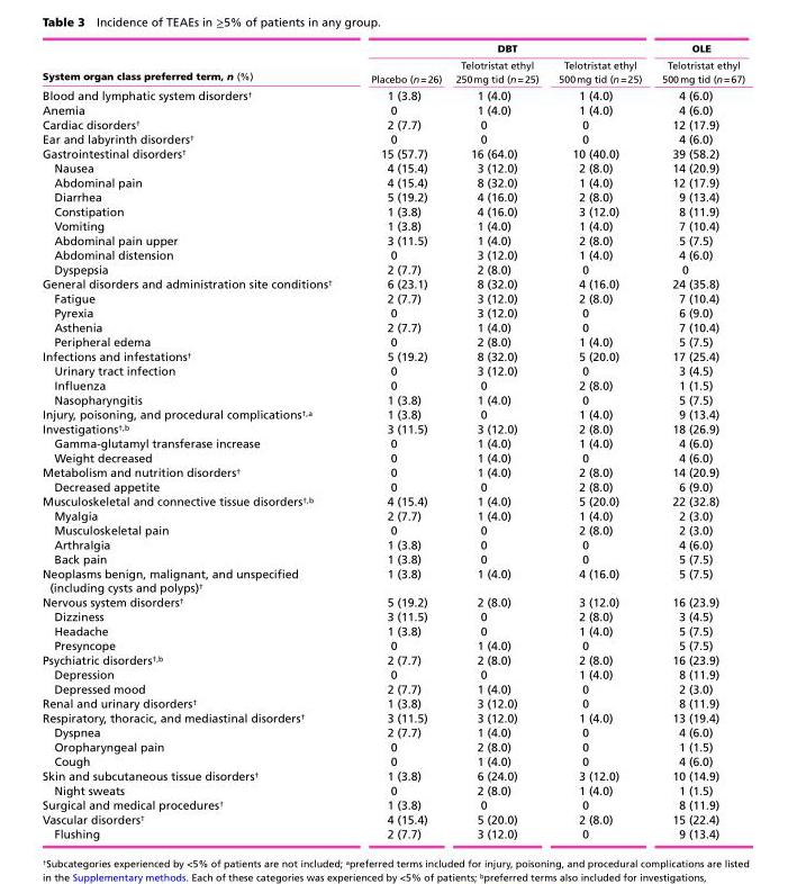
<table><thead><tr><td rowspan="2">System organ class preferred term, n (%)</td><td colspan="3">DBT</td><td rowspan="2">OLE Telotristat ethyl 500 mg tid (n = 67)</td></tr><tr><td>Placebo (n = 26)</td><td>Telotristat ethyl 250 mg tid (n = 25)</td><td>Telotristat ethyl 500 mg tid (n = 25)</td></tr></thead><tbody><tr><td>Blood and lymphatic system disorders<sup>†</sup></td><td>1 (3.8)</td><td>1 (4.0)</td><td>1 (4.0)</td><td>4 (6.0)</td></tr><tr><td>Anemia</td><td>0</td><td>1 (4.0)</td><td>1 (4.0)</td><td>4 (6.0)</td></tr><tr><td>Cardiac disorders<sup>†</sup></td><td>2 (7.7)</td><td>0</td><td>0</td><td>12 (17.9)</td></tr><tr><td>Ear and labyrinth disorders<sup>†</sup></td><td>0</td><td>0</td><td>0</td><td>4 (6.0)</td></tr><tr><td>Gastrointestinal disorders<sup>†</sup></td><td>15 (57.7)</td><td>16 (64.0)</td><td>10 (40.0)</td><td>39 (58.2)</td></tr><tr><td>Nausea</td><td>4 (15.4)</td><td>3 (12.0)</td><td>2 (8.0)</td><td>14 (20.9)</td></tr><tr><td>Abdominal pain</td><td>4 (15.4)</td><td>8 (32.0)</td><td>1 (4.0)</td><td>12 (17.9)</td></tr><tr><td>Diarrhea</td><td>5 (19.2)</td><td>4 (16.0)</td><td>2 (8.0)</td><td>9 (13.4)</td></tr><tr><td>Constipation</td><td>1 (3.8)</td><td>4 (16.0)</td><td>3 (12.0)</td><td>8 (11.9)</td></tr><tr><td>Vomiting</td><td>1 (3.8)</td><td>1 (4.0)</td><td>1 (4.0)</td><td>7 (10.4)</td></tr><tr><td>Abdominal pain upper</td><td>3 (11.5)</td><td>1 (4.0)</td><td>2 (8.0)</td><td>5 (7.5)</td></tr><tr><td>Abdominal distension</td><td>0</td><td>3 (12.0)</td><td>1 (4.0)</td><td>4 (6.0)</td></tr><tr><td>Dyspepsia</td><td>2 (7.7)</td><td>2 (8.0)</td><td>0</td><td>0</td></tr><tr><td>General disorders and administration site conditions<sup>†</sup></td><td>6 (23.1)</td><td>8 (32.0)</td><td>4 (16.0)</td><td>24 (35.8)</td></tr><tr><td>Fatigue</td><td>2 (7.7)</td><td>3 (12.0)</td><td>2 (8.0)</td><td>7 (10.4)</td></tr><tr><td>Pyrexia</td><td>0</td><td>3 (12.0)</td><td>0</td><td>6 (9.0)</td></tr><tr><td>Asthenia</td><td>2 (7.7)</td><td>1 (4.0)</td><td>0</td><td>7 (10.4)</td></tr><tr><td>Peripheral edema</td><td>0</td><td>2 (8.0)</td><td>1 (4.0)</td><td>5 (7.5)</td></tr><tr><td>Infections and infestations<sup>†</sup></td><td>5 (19.2)</td><td>8 (32.0)</td><td>5 (20.0)</td><td>17 (25.4)</td></tr><tr><td>Urinary tract infection</td><td>0</td><td>3 (12.0)</td><td>0</td><td>3 (4.5)</td></tr><tr><td>Influenza</td><td>0</td><td>0</td><td>2 (8.0)</td><td>1 (1.5)</td></tr><tr><td>Nasopharyngitis</td><td>1 (3.8)</td><td>1 (4.0)</td><td>0</td><td>5 (7.5)</td></tr><tr><td>Injury, poisoning, and procedural complications<sup>†,a</sup></td><td>1 (3.8)</td><td>0</td><td>1 (4.0)</td><td>9 (13.4)</td></tr><tr><td>Investigations<sup>†,b</sup></td><td>3 (11.5)</td><td>3 (12.0)</td><td>2 (8.0)</td><td>18 (26.9)</td></tr><tr><td>Gamma-glutamyl transferase increase</td><td>0</td><td>1 (4.0)</td><td>1 (4.0)</td><td>4 (6.0)</td></tr><tr><td>Weight decreased</td><td>0</td><td>1 (4.0)</td><td>0</td><td>4 (6.0)</td></tr><tr><td>Metabolism and nutrition disorders<sup>†</sup></td><td>0</td><td>1 (4.0)</td><td>2 (8.0)</td><td>14 (20.9)</td></tr><tr><td>Decreased appetite</td><td>0</td><td>0</td><td>2 (8.0)</td><td>6 (9.0)</td></tr><tr><td>Musculoskeletal and connective tissue disorders<sup>†,b</sup></td><td>4 (15.4)</td><td>1 (4.0)</td><td>5 (20.0)</td><td>22 (32.8)</td></tr><tr><td>Myalgia</td><td>2 (7.7)</td><td>1 (4.0)</td><td>1 (4.0)</td><td>2 (3.0)</td></tr><tr><td>Musculoskeletal pain</td><td>0</td><td>0</td><td>2 (8.0)</td><td>2 (3.0)</td></tr><tr><td>Arthralgia</td><td>1 (3.8)</td><td>0</td><td>0</td><td>4 (6.0)</td></tr><tr><td>Back pain</td><td>1 (3.8)</td><td>0</td><td>0</td><td>5 (7.5)</td></tr><tr><td>Neoplasms benign, malignant, and unspecified (including cysts and polyps)<sup>†</sup></td><td>1 (3.8)</td><td>1 (4.0)</td><td>4 (16.0)</td><td>5 (7.5)</td></tr><tr><td>Nervous system disorders<sup>†</sup></td><td>5 (19.2)</td><td>2 (8.0)</td><td>3 (12.0)</td><td>16 (23.9)</td></tr><tr><td>Dizziness</td><td>3 (11.5)</td><td>0</td><td>2 (8.0)</td><td>3 (4.5)</td></tr><tr><td>Headache</td><td>1 (3.8)</td><td>0</td><td>1 (4.0)</td><td>5 (7.5)</td></tr><tr><td>Presyncope</td><td>0</td><td>1 (4.0)</td><td>0</td><td>5 (7.5)</td></tr><tr><td>Psychiatric disorders<sup>†,b</sup></td><td>2 (7.7)</td><td>2 (8.0)</td><td>2 (8.0)</td><td>16 (23.9)</td></tr><tr><td>Depression</td><td>0</td><td>0</td><td>1 (4.0)</td><td>8 (11.9)</td></tr><tr><td>Depressed mood</td><td>2 (7.7)</td><td>1 (4.0)</td><td>0</td><td>2 (3.0)</td></tr><tr><td>Renal and urinary disorders<sup>†</sup></td><td>1 (3.8)</td><td>3 (12.0)</td><td>0</td><td>8 (11.9)</td></tr><tr><td>Respiratory, thoracic, and mediastinal disorders<sup>†</sup></td><td>3 (11.5)</td><td>3 (12.0)</td><td>1 (4.0)</td><td>13 (19.4)</td></tr><tr><td>Dyspnea</td><td>2 (7.7)</td><td>1 (4.0)</td><td>0</td><td>4 (6.0)</td></tr><tr><td>Oropharyngeal pain</td><td>0</td><td>2 (8.0)</td><td>0</td><td>1 (1.5)</td></tr><tr><td>Cough</td><td>0</td><td>1 (4.0)</td><td>0</td><td>4 (6.0)</td></tr><tr><td>Skin and subcutaneous tissue disorders<sup>†</sup></td><td>1 (3.8)</td><td>6 (24.0)</td><td>3 (12.0)</td><td>10 (14.9)</td></tr><tr><td>Night sweats</td><td>0</td><td>2 (8.0)</td><td>1 (4.0)</td><td>1 (1.5)</td></tr><tr><td>Surgical and medical procedures<sup>†</sup></td><td>1 (3.8)</td><td>0</td><td>0</td><td>8 (11.9)</td></tr><tr><td>Vascular disorders<sup>†</sup></td><td>4 (15.4)</td><td>5 (20.0)</td><td>2 (8.0)</td><td>15 (22.4)</td></tr><tr><td>Flushing</td><td>2 (7.7)</td><td>3 (12.0)</td><td>0</td><td>9 (13.4)</td></tr></tbody></table>